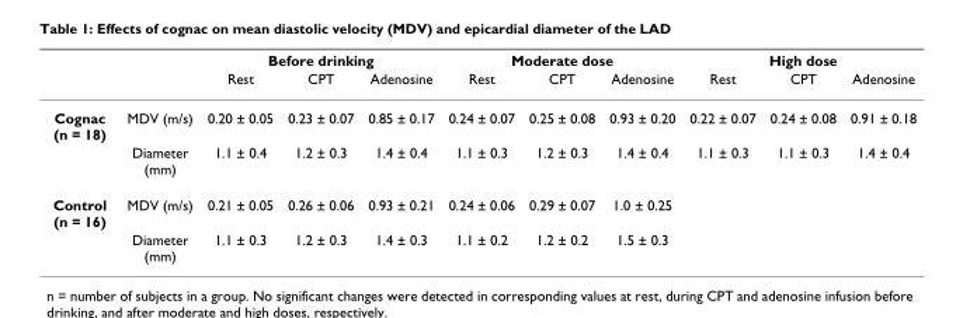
<table><thead><tr><td rowspan="2"></td><td rowspan="2"></td><td colspan="3">Before drinking</td><td colspan="3">Moderate dose</td><td colspan="3">High dose</td></tr><tr><td>Rest</td><td>CPT</td><td>Adenosine</td><td>Rest</td><td>CPT</td><td>Adenosine</td><td>Rest</td><td>CPT</td><td>Adenosine</td></tr></thead><tbody><tr><td rowspan="2">Cognac (n = 18)</td><td>MDV (m/s)</td><td>0.20 ± 0.05</td><td>0.23 ± 0.07</td><td>0.85 ± 0.17</td><td>0.24 ± 0.07</td><td>0.25 ± 0.08</td><td>0.93 ± 0.20</td><td>0.22 ± 0.07</td><td>0.24 ± 0.08</td><td>0.91 ± 0.18</td></tr><tr><td>Diameter (mm)</td><td>1.1 ± 0.4</td><td>1.2 ± 0.3</td><td>1.4 ± 0.4</td><td>1.1 ± 0.3</td><td>1.2 ± 0.3</td><td>1.4 ± 0.4</td><td>1.1 ± 0.3</td><td>1.1 ± 0.3</td><td>1.4 ± 0.4</td></tr><tr><td rowspan="2">Control (n = 16)</td><td>MDV (m/s)</td><td>0.21 ± 0.05</td><td>0.26 ± 0.06</td><td>0.93 ± 0.21</td><td>0.24 ± 0.06</td><td>0.29 ± 0.07</td><td>1.0 ± 0.25</td><td></td><td></td><td></td></tr><tr><td>Diameter (mm)</td><td>1.1 ± 0.3</td><td>1.2 ± 0.3</td><td>1.4 ± 0.3</td><td>1.1 ± 0.2</td><td>1.2 ± 0.2</td><td>1.5 ± 0.3</td><td></td><td></td><td></td></tr></tbody></table>